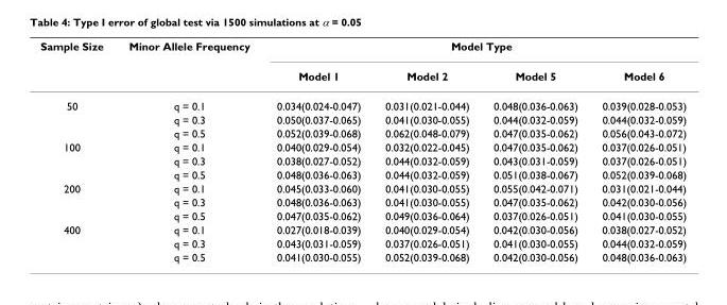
<table><thead><tr><td rowspan="2">Sample Size</td><td rowspan="2">Minor Allele Frequency</td><td colspan="4">Model Type</td></tr><tr><td>Model 1</td><td>Model 2</td><td>Model 5</td><td>Model 6</td></tr></thead><tbody><tr><td rowspan="3">50</td><td>q = 0.1</td><td>0.034(0.024-0.047)</td><td>0.031(0.021-0.044)</td><td>0.048(0.036-0.063)</td><td>0.039(0.028-0.053)</td></tr><tr><td>q = 0.3</td><td>0.050(0.037-0.065)</td><td>0.041(0.030-0.055)</td><td>0.044(0.032-0.059)</td><td>0.044(0.032-0.059)</td></tr><tr><td>q = 0.5</td><td>0.052(0.039-0.068)</td><td>0.062(0.048-0.079)</td><td>0.047(0.035-0.062)</td><td>0.056(0.043-0.072)</td></tr><tr><td rowspan="3">100</td><td>q = 0.1</td><td>0.040(0.029-0.054)</td><td>0.032(0.022-0.045)</td><td>0.047(0.035-0.062)</td><td>0.037(0.026-0.051)</td></tr><tr><td>q = 0.3</td><td>0.038(0.027-0.052)</td><td>0.044(0.032-0.059)</td><td>0.043(0.031-0.059)</td><td>0.037(0.026-0.051)</td></tr><tr><td>q = 0.5</td><td>0.048(0.036-0.063)</td><td>0.044(0.032-0.059)</td><td>0.051(0.038-0.067)</td><td>0.052(0.039-0.068)</td></tr><tr><td rowspan="3">200</td><td>q = 0.1</td><td>0.045(0.033-0.060)</td><td>0.041(0.030-0.055)</td><td>0.055(0.042-0.071)</td><td>0.031(0.021-0.044)</td></tr><tr><td>q = 0.3</td><td>0.048(0.036-0.063)</td><td>0.041(0.030-0.055)</td><td>0.047(0.035-0.062)</td><td>0.042(0.030-0.056)</td></tr><tr><td>q = 0.5</td><td>0.047(0.035-0.062)</td><td>0.049(0.036-0.064)</td><td>0.037(0.026-0.051)</td><td>0.041(0.030-0.055)</td></tr><tr><td rowspan="3">400</td><td>q = 0.1</td><td>0.027(0.018-0.039)</td><td>0.040(0.029-0.054)</td><td>0.042(0.030-0.056)</td><td>0.038(0.027-0.052)</td></tr><tr><td>q = 0.3</td><td>0.043(0.031-0.059)</td><td>0.037(0.026-0.051)</td><td>0.041(0.030-0.055)</td><td>0.044(0.032-0.059)</td></tr><tr><td>q = 0.5</td><td>0.041(0.030-0.055)</td><td>0.052(0.039-0.068)</td><td>0.042(0.030-0.056)</td><td>0.048(0.036-0.063)</td></tr></tbody></table>